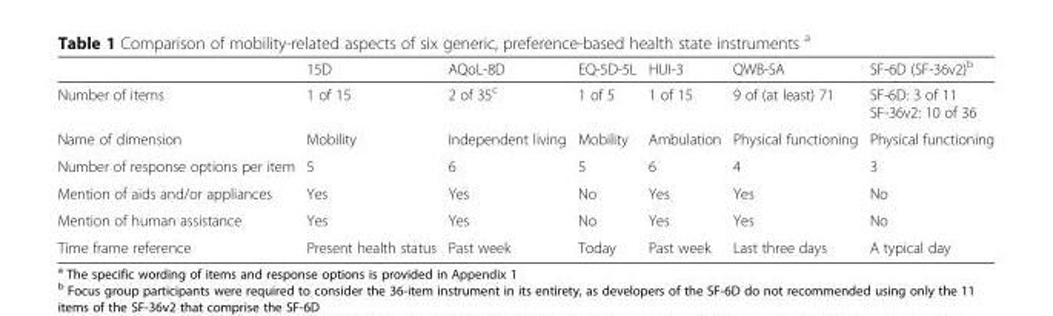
<table><thead><tr><td></td><td>15D</td><td>AQoL-8D</td><td>EQ-5D-5L</td><td>HUI-3</td><td>QWB-SA</td><td>SF-6D (SF-36v2)<sup>b</sup></td></tr></thead><tbody><tr><td>Number of items</td><td>1 of 15</td><td>2 of 35<sup>c</sup></td><td>1 of 5</td><td>1 of 15</td><td>9 of (at least) 71</td><td>SF-6D: 3 of 11 SF-36v2: 10 of 36</td></tr><tr><td>Name of dimension</td><td>Mobility</td><td>Independent living</td><td>Mobility</td><td>Ambulation</td><td>Physical functioning</td><td>Physical functioning</td></tr><tr><td>Number of response options per item</td><td>5</td><td>6</td><td>5</td><td>6</td><td>4</td><td>3</td></tr><tr><td>Mention of aids and/or appliances</td><td>Yes</td><td>Yes</td><td>No</td><td>Yes</td><td>Yes</td><td>No</td></tr><tr><td>Mention of human assistance</td><td>Yes</td><td>Yes</td><td>No</td><td>Yes</td><td>Yes</td><td>No</td></tr><tr><td>Time frame reference</td><td>Present health status</td><td>Past week</td><td>Today</td><td>Past week</td><td>Last three days</td><td>A typical day</td></tr></tbody></table>